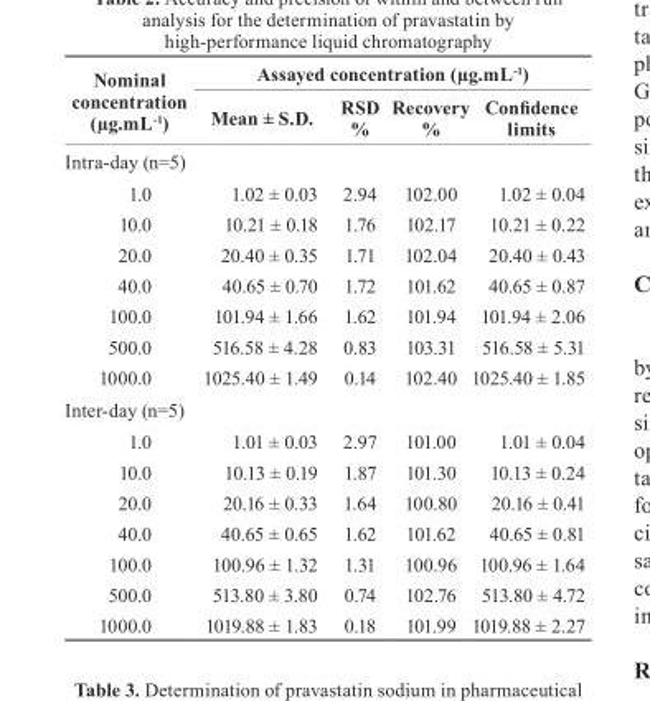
<table><thead><tr><td rowspan="2">Nominal concentration (µg.mL<sup>-1</sup>)</td><td colspan="4">Assayed concentration (µg.mL<sup>-1</sup>)</td></tr><tr><td>Mean ± s.D.</td><td>rsD %</td><td>recovery %</td><td>Confidence limits</td></tr></thead><tbody><tr><td colspan="5">Intra-day (n=5)</td></tr><tr><td>1.0</td><td>1.02 ± 0.03</td><td>2.94</td><td>102.00</td><td>1.02 ± 0.04</td></tr><tr><td>10.0</td><td>10.21 ± 0.18</td><td>1.76</td><td>102.17</td><td>10.21 ± 0.22</td></tr><tr><td>20.0</td><td>20.40 ± 0.35</td><td>1.71</td><td>102.04</td><td>20.40 ± 0.43</td></tr><tr><td>40.0</td><td>40.65 ± 0.70</td><td>1.72</td><td>101.62</td><td>40.65 ± 0.87</td></tr><tr><td>100.0</td><td>101.94 ± 1.66</td><td>1.62</td><td>101.94</td><td>101.94 ± 2.06</td></tr><tr><td>500.0</td><td>516.58 ± 4.28</td><td>0.83</td><td>103.31</td><td>516.58 ± 5.31</td></tr><tr><td>1000.0</td><td>1025.40 ± 1.49</td><td>0.14</td><td>102.40</td><td>1025.40 ± 1.85</td></tr><tr><td colspan="5">Inter-day (n=5)</td></tr><tr><td>1.0</td><td>1.01 ± 0.03</td><td>2.97</td><td>101.00</td><td>1.01 ± 0.04</td></tr><tr><td>10.0</td><td>10.13 ± 0.19</td><td>1.87</td><td>101.30</td><td>10.13 ± 0.24</td></tr><tr><td>20.0</td><td>20.16 ± 0.33</td><td>1.64</td><td>100.80</td><td>20.16 ± 0.41</td></tr><tr><td>40.0</td><td>40.65 ± 0.65</td><td>1.62</td><td>101.62</td><td>40.65 ± 0.81</td></tr><tr><td>100.0</td><td>100.96 ± 1.32</td><td>1.31</td><td>100.96</td><td>100.96 ± 1.64</td></tr><tr><td>500.0</td><td>513.80 ± 3.80</td><td>0.74</td><td>102.76</td><td>513.80 ± 4.72</td></tr><tr><td>1000.0</td><td>1019.88 ± 1.83</td><td>0.18</td><td>101.99</td><td>1019.88 ± 2.27</td></tr></tbody></table>